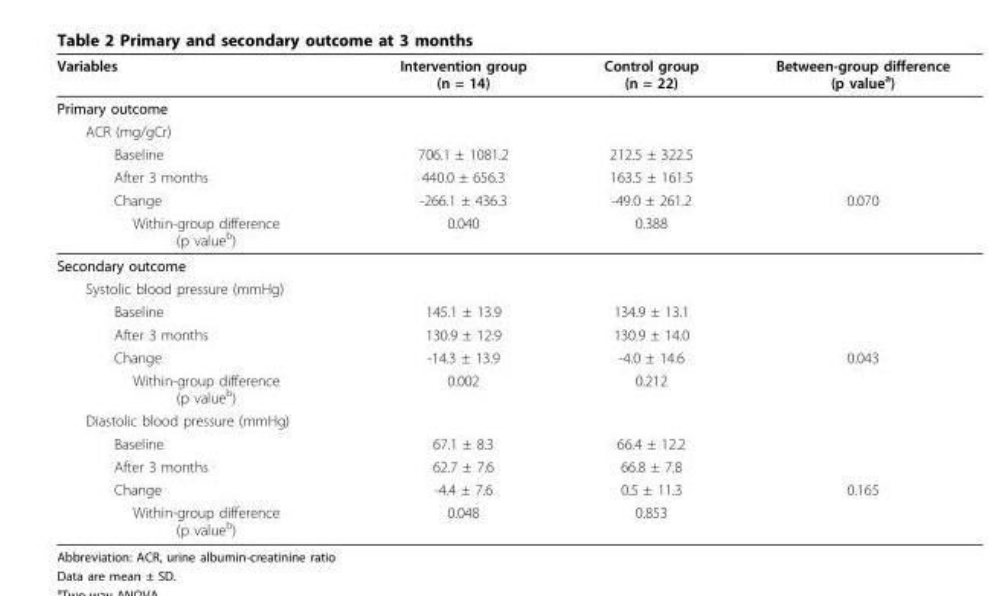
<table><thead><tr><td>Variables</td><td>Intervention group (n = 14)</td><td>Control group (n = 22)</td><td>Between-group difference (p value<sup>a</sup>)</td></tr></thead><tbody><tr><td colspan="4">Primary outcome</td></tr><tr><td colspan="4">ACR (mg/gCr)</td></tr><tr><td>Baseline</td><td>706.1 ± 1081.2</td><td>212.5 ± 322.5</td><td></td></tr><tr><td>After 3 months</td><td>440.0 ± 656.3</td><td>163.5 ± 161.5</td><td></td></tr><tr><td>Change</td><td>-266.1 ± 436.3</td><td>-49.0 ± 261.2</td><td>0.070</td></tr><tr><td>Within-group difference (p value<sup>b</sup>)</td><td>0.040</td><td>0.388</td><td></td></tr><tr><td colspan="4">Secondary outcome</td></tr><tr><td colspan="4">Systolic blood pressure (mmHg)</td></tr><tr><td>Baseline</td><td>145.1 ± 13.9</td><td>134.9 ± 13.1</td><td></td></tr><tr><td>After 3 months</td><td>130.9 ± 12.9</td><td>130.9 ± 14.0</td><td></td></tr><tr><td>Change</td><td>-14.3 ± 13.9</td><td>-4.0 ± 14.6</td><td>0.043</td></tr><tr><td>Within-group difference (p value<sup>b</sup>)</td><td>0.002</td><td>0.212</td><td></td></tr><tr><td colspan="4">Diastolic blood pressure (mmHg)</td></tr><tr><td>Baseline</td><td>67.1 ± 8.3</td><td>66.4 ± 12.2</td><td></td></tr><tr><td>After 3 months</td><td>62.7 ± 7.6</td><td>66.8 ± 7.8</td><td></td></tr><tr><td>Change</td><td>-4.4 ± 7.6</td><td>0.5 ± 11.3</td><td>0.165</td></tr><tr><td>Within-group difference (p value<sup>b</sup>)</td><td>0.048</td><td>0.853</td><td></td></tr></tbody></table>